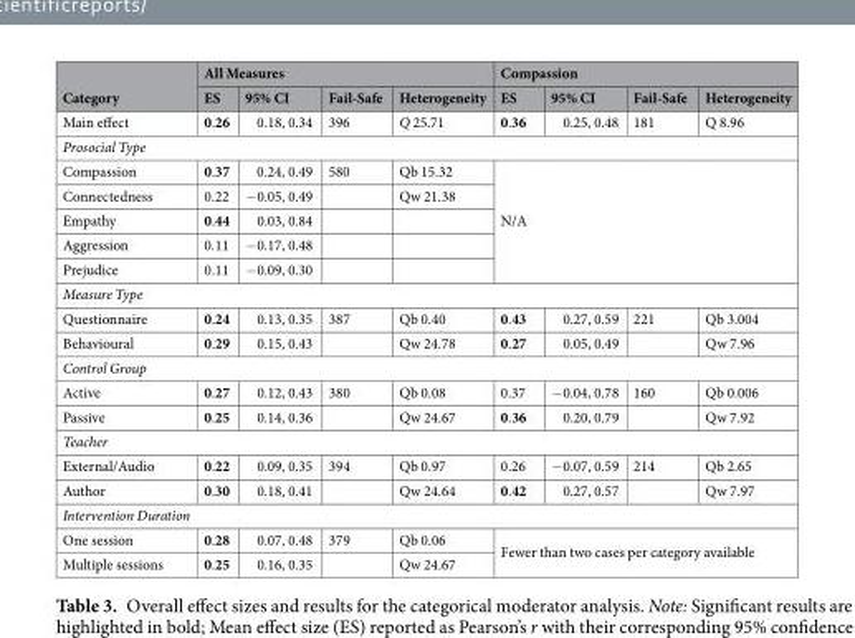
<table><thead><tr><td rowspan="2">Category</td><td colspan="4">All Measures</td><td colspan="4">Compassion</td></tr><tr><td>ES</td><td>95% CI</td><td>Fail-Safe</td><td>Heterogeneity</td><td>ES</td><td>95% CI</td><td>Fail-Safe</td><td>Heterogeneity</td></tr></thead><tbody><tr><td>Main effect</td><td>0.26</td><td>0.18, 0.34</td><td>396</td><td>Q 25.71</td><td>0.36</td><td>0.25, 0.48</td><td>181</td><td>Q 8.96</td></tr><tr><td colspan="9">Prosocial Type</td></tr><tr><td>Compassion</td><td>0.37</td><td>0.24, 0.49</td><td>580</td><td>Qb 15.32</td><td rowspan="5" colspan="4">N/A</td></tr><tr><td>Connectedness</td><td>0.22</td><td>−0.05, 0.49</td><td></td><td>Qw 21.38</td></tr><tr><td>Empathy</td><td>0.44</td><td>0.03, 0.84</td><td></td><td></td></tr><tr><td>Aggression</td><td>0.11</td><td>−0.17, 0.48</td><td></td><td></td></tr><tr><td>Prejudice</td><td>0.11</td><td>−0.09, 0.30</td><td></td><td></td></tr><tr><td colspan="9">Measure Type</td></tr><tr><td>Questionnaire</td><td>0.24</td><td>0.13, 0.35</td><td>387</td><td>Qb 0.40</td><td>0.43</td><td>0.27, 0.59</td><td>221</td><td>Qb 3.004</td></tr><tr><td>Behavioural</td><td>0.29</td><td>0.15, 0.43</td><td></td><td>Qw 24.78</td><td>0.27</td><td>0.05, 0.49</td><td></td><td>Qw 7.96</td></tr><tr><td colspan="9">Control Group</td></tr><tr><td>Active</td><td>0.27</td><td>0.12, 0.43</td><td>380</td><td>Qb 0.08</td><td>0.37</td><td>−0.04, 0.78</td><td>160</td><td>Qb 0.006</td></tr><tr><td>Passive</td><td>0.25</td><td>0.14, 0.36</td><td></td><td>Qw 24.67</td><td>0.36</td><td>0.20, 0.79</td><td></td><td>Qw 7.92</td></tr><tr><td colspan="9">Teacher</td></tr><tr><td>External/Audio</td><td>0.22</td><td>0.09, 0.35</td><td>394</td><td>Qb 0.97</td><td>0.26</td><td>−0.07, 0.59</td><td>214</td><td>Qb 2.65</td></tr><tr><td>Author</td><td>0.30</td><td>0.18, 0.41</td><td></td><td>Qw 24.64</td><td>0.42</td><td>0.27, 0.57</td><td></td><td>Qw 7.97</td></tr><tr><td colspan="9">Intervention Duration</td></tr><tr><td>One session</td><td>0.28</td><td>0.07, 0.48</td><td>379</td><td>Qb 0.06</td><td rowspan="2" colspan="4">Fewer than two cases per category available</td></tr><tr><td>Multiple sessions</td><td>0.25</td><td>0.16, 0.35</td><td></td><td>Qw 24.67</td></tr></tbody></table>